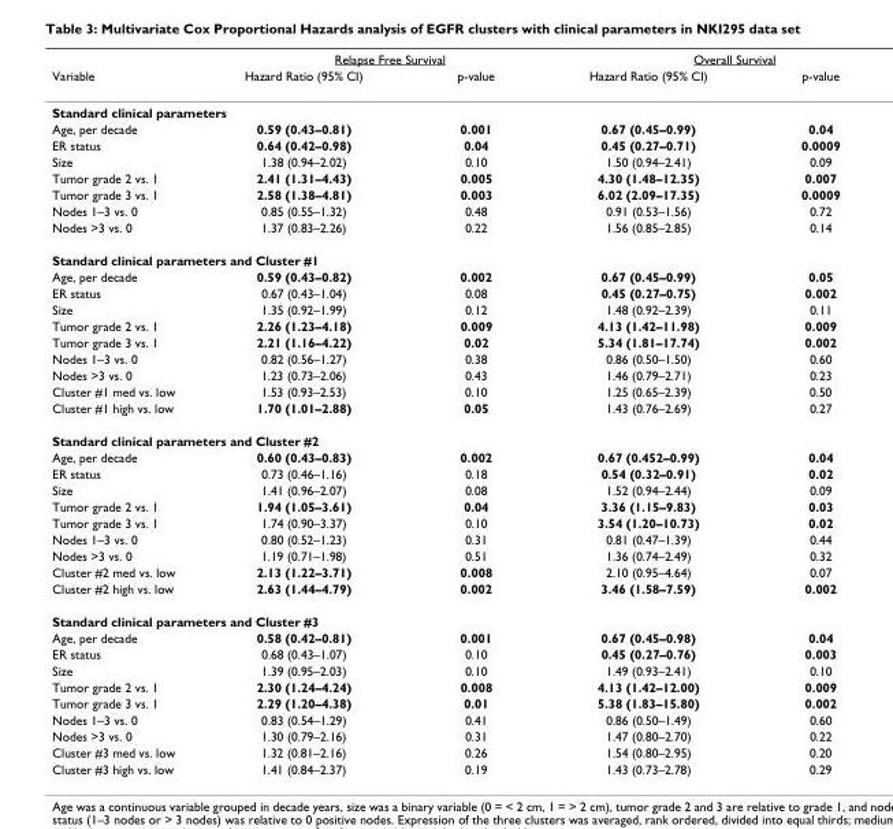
<table><thead><tr><td rowspan="2">Variable</td><td colspan="2">Relapse Free Survival</td><td colspan="2">Overall Survival</td></tr><tr><td>Hazard Ratio (95% CI)</td><td>p-value</td><td>Hazard Ratio (95% CI)</td><td>p-value</td></tr></thead><tbody><tr><td colspan="5">Standard clinical parameters</td></tr><tr><td>Age, per decade</td><td>0.59 (0.43–0.81)</td><td>0.001</td><td>0.67 (0.45–0.99)</td><td>0.04</td></tr><tr><td>ER status</td><td>0.64 (0.42–0.98)</td><td>0.04</td><td>0.45 (0.27–0.71)</td><td>0.0009</td></tr><tr><td>Size</td><td>1.38 (0.94–2.02)</td><td>0.10</td><td>1.50 (0.94–2.41)</td><td>0.09</td></tr><tr><td>Tumor grade 2 vs. 1</td><td>2.41 (1.31–4.43)</td><td>0.005</td><td>4.30 (1.48–12.35)</td><td>0.007</td></tr><tr><td>Tumor grade 3 vs. 1</td><td>2.58 (1.38–4.81)</td><td>0.003</td><td>6.02 (2.09–17.35)</td><td>0.0009</td></tr><tr><td>Nodes 1–3 vs. 0</td><td>0.85 (0.55–1.32)</td><td>0.48</td><td>0.91 (0.53–1.56)</td><td>0.72</td></tr><tr><td>Nodes &gt;3 vs. 0</td><td>1.37 (0.83–2.26)</td><td>0.22</td><td>1.56 (0.85–2.85)</td><td>0.14</td></tr><tr><td colspan="5">Standard clinical parameters and Cluster #1</td></tr><tr><td>Age, per decade</td><td>0.59 (0.43–0.82)</td><td>0.002</td><td>0.67 (0.45–0.99)</td><td>0.05</td></tr><tr><td>ER status</td><td>0.67 (0.43–1.04)</td><td>0.08</td><td>0.45 (0.27–0.75)</td><td>0.002</td></tr><tr><td>Size</td><td>1.35 (0.92–1.99)</td><td>0.12</td><td>1.48 (0.92–2.39)</td><td>0.11</td></tr><tr><td>Tumor grade 2 vs. 1</td><td>2.26 (1.23–4.18)</td><td>0.009</td><td>4.13 (1.42–11.98)</td><td>0.009</td></tr><tr><td>Tumor grade 3 vs. 1</td><td>2.21 (1.16–4.22)</td><td>0.02</td><td>5.34 (1.81–17.74)</td><td>0.002</td></tr><tr><td>Nodes 1–3 vs. 0</td><td>0.82 (0.56–1.27)</td><td>0.38</td><td>0.86 (0.50–1.50)</td><td>0.60</td></tr><tr><td>Nodes &gt;3 vs. 0</td><td>1.23 (0.73–2.06)</td><td>0.43</td><td>1.46 (0.79–2.71)</td><td>0.23</td></tr><tr><td>Cluster #1 med vs. low</td><td>1.53 (0.93–2.53)</td><td>0.10</td><td>1.25 (0.65–2.39)</td><td>0.50</td></tr><tr><td>Cluster #1 high vs. low</td><td>1.70 (1.01–2.88)</td><td>0.05</td><td>1.43 (0.76–2.69)</td><td>0.27</td></tr><tr><td colspan="5">Standard clinical parameters and Cluster #2</td></tr><tr><td>Age, per decade</td><td>0.60 (0.43–0.83)</td><td>0.002</td><td>0.67 (0.452–0.99)</td><td>0.04</td></tr><tr><td>ER status</td><td>0.73 (0.46–1.16)</td><td>0.18</td><td>0.54 (0.32–0.91)</td><td>0.02</td></tr><tr><td>Size</td><td>1.41 (0.96–2.07)</td><td>0.08</td><td>1.52 (0.94–2.44)</td><td>0.09</td></tr><tr><td>Tumor grade 2 vs. 1</td><td>1.94 (1.05–3.61)</td><td>0.04</td><td>3.36 (1.15–9.83)</td><td>0.03</td></tr><tr><td>Tumor grade 3 vs. 1</td><td>1.74 (0.90–3.37)</td><td>0.10</td><td>3.54 (1.20–10.73)</td><td>0.02</td></tr><tr><td>Nodes 1–3 vs. 0</td><td>0.80 (0.52–1.23)</td><td>0.31</td><td>0.81 (0.47–1.39)</td><td>0.44</td></tr><tr><td>Nodes &gt;3 vs. 0</td><td>1.19 (0.71–1.98)</td><td>0.51</td><td>1.36 (0.74–2.49)</td><td>0.32</td></tr><tr><td>Cluster #2 med vs. low</td><td>2.13 (1.22–3.71)</td><td>0.008</td><td>2.10 (0.95–4.64)</td><td>0.07</td></tr><tr><td>Cluster #2 high vs. low</td><td>2.63 (1.44–4.79)</td><td>0.002</td><td>3.46 (1.58–7.59)</td><td>0.002</td></tr><tr><td colspan="5">Standard clinical parameters and Cluster #3</td></tr><tr><td>Age, per decade</td><td>0.58 (0.42–0.81)</td><td>0.001</td><td>0.67 (0.45–0.98)</td><td>0.04</td></tr><tr><td>ER status</td><td>0.68 (0.43–1.07)</td><td>0.10</td><td>0.45 (0.27–0.76)</td><td>0.003</td></tr><tr><td>Size</td><td>1.39 (0.95–2.03)</td><td>0.10</td><td>1.49 (0.93–2.41)</td><td>0.10</td></tr><tr><td>Tumor grade 2 vs. 1</td><td>2.30 (1.24–4.24)</td><td>0.008</td><td>4.13 (1.42–12.00)</td><td>0.009</td></tr><tr><td>Tumor grade 3 vs. 1</td><td>2.29 (1.20–4.38)</td><td>0.01</td><td>5.38 (1.83–15.80)</td><td>0.002</td></tr><tr><td>Nodes 1–3 vs. 0</td><td>0.83 (0.54–1.29)</td><td>0.41</td><td>0.86 (0.50–1.49)</td><td>0.60</td></tr><tr><td>Nodes &gt;3 vs. 0</td><td>1.30 (0.79–2.16)</td><td>0.31</td><td>1.47 (0.80–2.70)</td><td>0.22</td></tr><tr><td>Cluster #3 med vs. low</td><td>1.32 (0.81–2.16)</td><td>0.26</td><td>1.54 (0.80–2.95)</td><td>0.20</td></tr><tr><td>Cluster #3 high vs. low</td><td>1.41 (0.84–2.37)</td><td>0.19</td><td>1.43 (0.73–2.78)</td><td>0.29</td></tr></tbody></table>